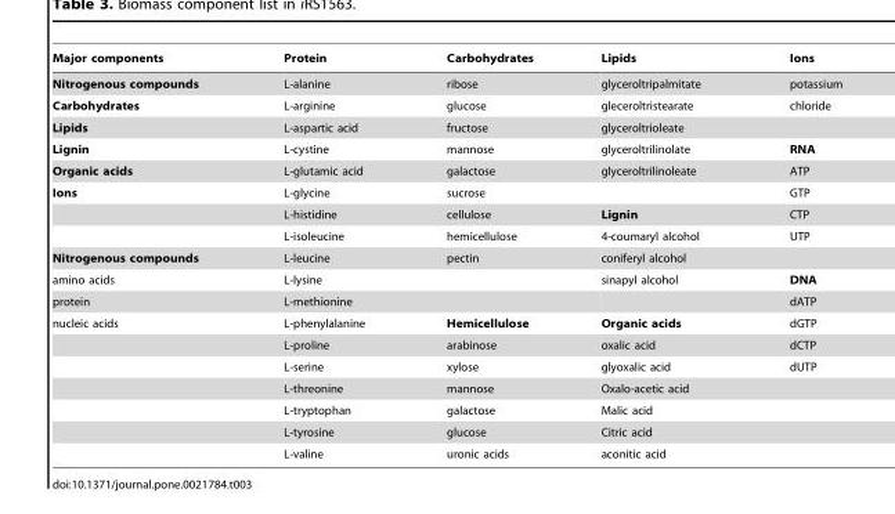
<table><thead><tr><td>Major components</td><td>Protein</td><td>Carbohydrates</td><td>Lipids</td><td>Ions</td></tr></thead><tbody><tr><td>Nitrogenous compounds</td><td>L-alanine</td><td>ribose</td><td>glyceroltripalmitate</td><td>potassium</td></tr><tr><td>Carbohydrates</td><td>L-arginine</td><td>glucose</td><td>gleceroltristearate</td><td>chloride</td></tr><tr><td>Lipids</td><td>L-aspartic acid</td><td>fructose</td><td>glyceroltrioleate</td><td></td></tr><tr><td>Lignin</td><td>L-cystine</td><td>mannose</td><td>glyceroltrilinolate</td><td>RNA</td></tr><tr><td>Organic acids</td><td>L-glutamic acid</td><td>galactose</td><td>glyceroltrilinoleate</td><td>ATP</td></tr><tr><td rowspan="3">Ions</td><td>L-glycine</td><td>sucrose</td><td></td><td>GTP</td></tr><tr><td>L-histidine</td><td>cellulose</td><td>Lignin</td><td>CTP</td></tr><tr><td>L-isoleucine</td><td>hemicellulose</td><td>4-coumaryl alcohol</td><td>UTP</td></tr><tr><td>Nitrogenous compounds</td><td>L-leucine</td><td>pectin</td><td>coniferyl alcohol</td><td></td></tr><tr><td>amino acids</td><td>L-lysine</td><td></td><td>sinapyl alcohol</td><td>DNA</td></tr><tr><td>protein</td><td>L-methionine</td><td></td><td></td><td>dATP</td></tr><tr><td rowspan="7">nucleic acids</td><td>L-phenylalanine</td><td>Hemicellulose</td><td>Organic acids</td><td>dGTP</td></tr><tr><td>L-proline</td><td>arabinose</td><td>oxalic acid</td><td>dCTP</td></tr><tr><td>L-serine</td><td>xylose</td><td>glyoxalic acid</td><td>dUTP</td></tr><tr><td>L-threonine</td><td>mannose</td><td>Oxalo-acetic acid</td><td></td></tr><tr><td>L-tryptophan</td><td>galactose</td><td>Malic acid</td><td></td></tr><tr><td>L-tyrosine</td><td>glucose</td><td>Citric acid</td><td></td></tr><tr><td>L-valine</td><td>uronic acids</td><td>aconitic acid</td><td></td></tr></tbody></table>